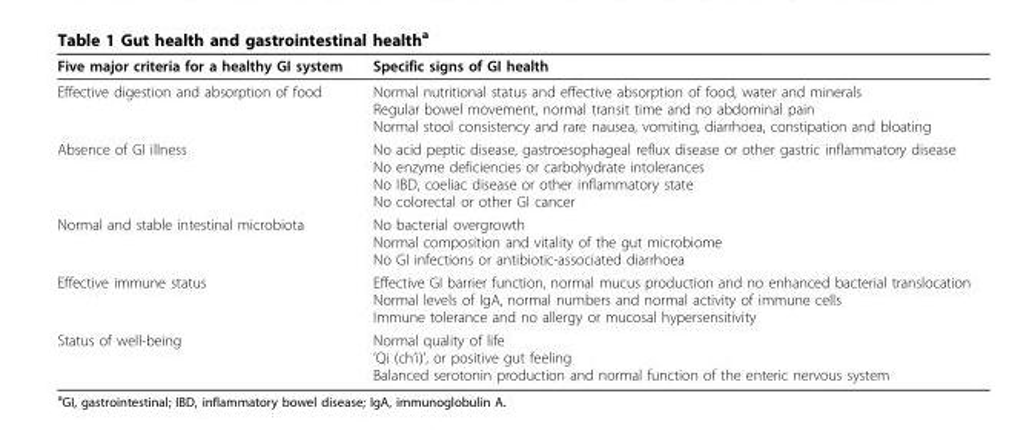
<table><thead><tr><td>Five major criteria for a healthy GI system</td><td>Specific signs of GI health</td></tr></thead><tbody><tr><td>Effective digestion and absorption of food</td><td>Normal nutritional status and effective absorption of food, water and minerals Regular bowel movement, normal transit time and no abdominal pain Normal stool consistency and rare nausea, vomiting, diarrhoea, constipation and bloating</td></tr><tr><td>Absence of GI illness</td><td>No acid peptic disease, gastroesophageal reflux disease or other gastric inflammatory disease No enzyme deficiencies or carbohydrate intolerances No IBD, coeliac disease or other inflammatory state No colorectal or other GI cancer</td></tr><tr><td>Normal and stable intestinal microbiota</td><td>No bacterial overgrowth Normal composition and vitality of the gut microbiome No GI infections or antibiotic-associated diarrhoea</td></tr><tr><td>Effective immune status</td><td>Effective GI barrier function, normal mucus production and no enhanced bacterial translocation Normal levels of IgA, normal numbers and normal activity of immune cells Immune tolerance and no allergy or mucosal hypersensitivity</td></tr><tr><td>Status of well-being</td><td>Normal quality of life ’Qi (ch’i)’, or positive gut feeling Balanced serotonin production and normal function of the enteric nervous system</td></tr></tbody></table>